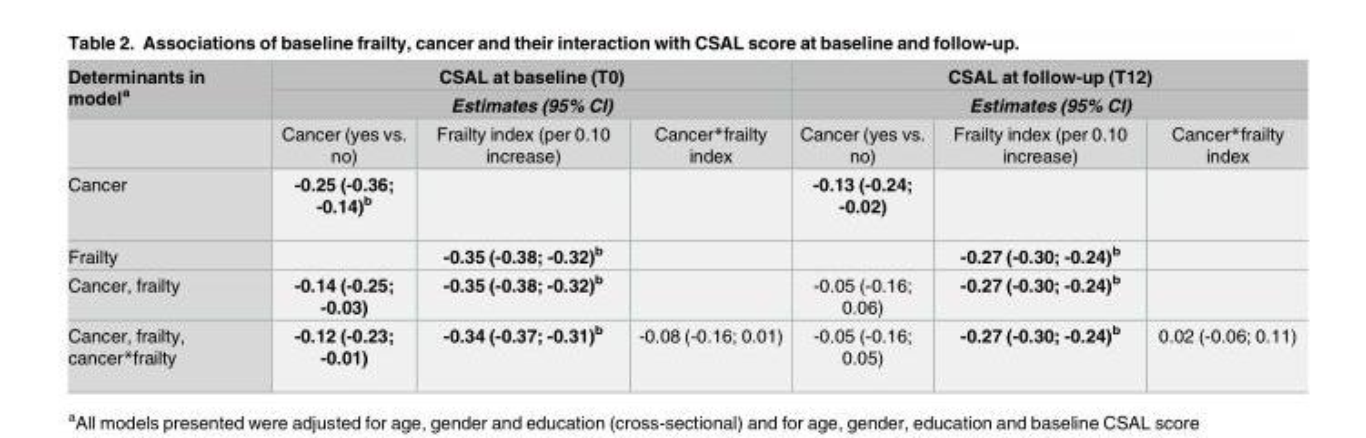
<table><thead><tr><td rowspan="3">Determinants in model<sup>a</sup></td><td rowspan="2" colspan="3">CSAL at baseline (T0) Estimates (95% CI)</td><td rowspan="2" colspan="3">CSAL at follow-up (T12) Estimates (95% CI)</td></tr><tr></tr><tr><td>Cancer (yes vs. no)</td><td>Frailty index (per 0.10 increase)</td><td>Cancer*frailty index</td><td>Cancer (yes vs. no)</td><td>Frailty index (per 0.10 increase)</td><td>Cancer*frailty index</td></tr></thead><tbody><tr><td>Cancer</td><td>-0.25 (-0.36; -0.14)<sup>b</sup></td><td></td><td></td><td>-0.13 (-0.24; -0.02)</td><td></td><td></td></tr><tr><td>Frailty</td><td></td><td>-0.35 (-0.38; -0.32)<sup>b</sup></td><td></td><td></td><td>-0.27 (-0.30; -0.24)<sup>b</sup></td><td></td></tr><tr><td>Cancer, frailty</td><td>-0.14 (-0.25; -0.03)</td><td>-0.35 (-0.38; -0.32)<sup>b</sup></td><td></td><td>-0.05 (-0.16; 0.06)</td><td>-0.27 (-0.30; -0.24)<sup>b</sup></td><td></td></tr><tr><td>Cancer, frailty, cancer*frailty</td><td>-0.12 (-0.23; -0.01)</td><td>-0.34 (-0.37; -0.31)<sup>b</sup></td><td>-0.08 (-0.16; 0.01)</td><td>-0.05 (-0.16; 0.05)</td><td>-0.27 (-0.30; -0.24)<sup>b</sup></td><td>0.02 (-0.06; 0.11)</td></tr></tbody></table>